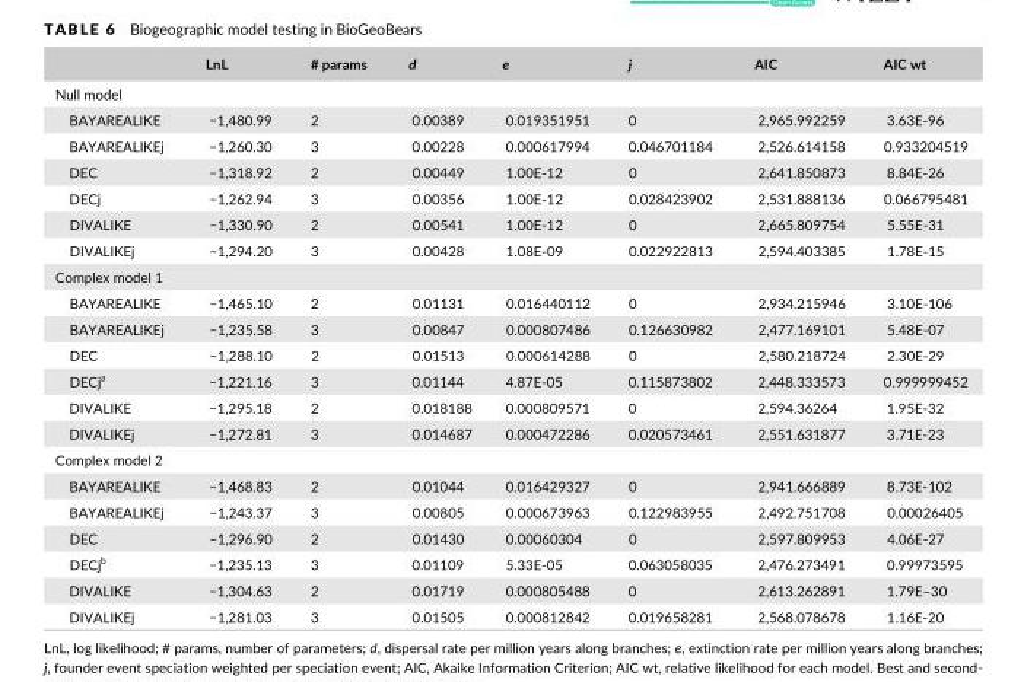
<table><thead><tr><td></td><td>LnL</td><td># params</td><td>d</td><td>e</td><td>j</td><td>AIC</td><td>AIC wt</td></tr></thead><tbody><tr><td colspan="8">Null model</td></tr><tr><td>BAYAREALIKE</td><td>−1,480.99</td><td>2</td><td>0.00389</td><td>0.019351951</td><td>0</td><td>2,965.992259</td><td>3.63E- 96</td></tr><tr><td>BAYAREALIKEj</td><td>−1,260.30</td><td>3</td><td>0.00228</td><td>0.000617994</td><td>0.046701184</td><td>2,526.614158</td><td>0.933204519</td></tr><tr><td>DEC</td><td>−1,318.92</td><td>2</td><td>0.00449</td><td>1.00E- 12</td><td>0</td><td>2,641.850873</td><td>8.84E- 26</td></tr><tr><td>DECj</td><td>−1,262.94</td><td>3</td><td>0.00356</td><td>1.00E- 12</td><td>0.028423902</td><td>2,531.888136</td><td>0.066795481</td></tr><tr><td>DIVALIKE</td><td>−1,330.90</td><td>2</td><td>0.00541</td><td>1.00E- 12</td><td>0</td><td>2,665.809754</td><td>5.55E- 31</td></tr><tr><td>DIVALIKEj</td><td>−1,294.20</td><td>3</td><td>0.00428</td><td>1.08E- 09</td><td>0.022922813</td><td>2,594.403385</td><td>1.78E- 15</td></tr><tr><td colspan="8">Complex model 1</td></tr><tr><td>BAYAREALIKE</td><td>−1,465.10</td><td>2</td><td>0.01131</td><td>0.016440112</td><td>0</td><td>2,934.215946</td><td>3.10E- 106</td></tr><tr><td>BAYAREALIKEj</td><td>−1,235.58</td><td>3</td><td>0.00847</td><td>0.000807486</td><td>0.126630982</td><td>2,477.169101</td><td>5.48E- 07</td></tr><tr><td>DEC</td><td>−1,288.10</td><td>2</td><td>0.01513</td><td>0.000614288</td><td>0</td><td>2,580.218724</td><td>2.30E- 29</td></tr><tr><td>DECj<sup>a</sup></td><td>−1,221.16</td><td>3</td><td>0.01144</td><td>4.87E- 05</td><td>0.115873802</td><td>2,448.333573</td><td>0.999999452</td></tr><tr><td>DIVALIKE</td><td>−1,295.18</td><td>2</td><td>0.018188</td><td>0.000809571</td><td>0</td><td>2,594.36264</td><td>1.95E- 32</td></tr><tr><td>DIVALIKEj</td><td>−1,272.81</td><td>3</td><td>0.014687</td><td>0.000472286</td><td>0.020573461</td><td>2,551.631877</td><td>3.71E- 23</td></tr><tr><td colspan="8">Complex model 2</td></tr><tr><td>BAYAREALIKE</td><td>−1,468.83</td><td>2</td><td>0.01044</td><td>0.016429327</td><td>0</td><td>2,941.666889</td><td>8.73E- 102</td></tr><tr><td>BAYAREALIKEj</td><td>−1,243.37</td><td>3</td><td>0.00805</td><td>0.000673963</td><td>0.122983955</td><td>2,492.751708</td><td>0.00026405</td></tr><tr><td>DEC</td><td>−1,296.90</td><td>2</td><td>0.01430</td><td>0.00060304</td><td>0</td><td>2,597.809953</td><td>4.06E- 27</td></tr><tr><td>DECj<sup>b</sup></td><td>−1,235.13</td><td>3</td><td>0.01109</td><td>5.33E- 05</td><td>0.063058035</td><td>2,476.273491</td><td>0.99973595</td></tr><tr><td>DIVALIKE</td><td>−1,304.63</td><td>2</td><td>0.01719</td><td>0.000805488</td><td>0</td><td>2,613.262891</td><td>1.79E–30</td></tr><tr><td>DIVALIKEj</td><td>−1,281.03</td><td>3</td><td>0.01505</td><td>0.000812842</td><td>0.019658281</td><td>2,568.078678</td><td>1.16E- 20</td></tr></tbody></table>